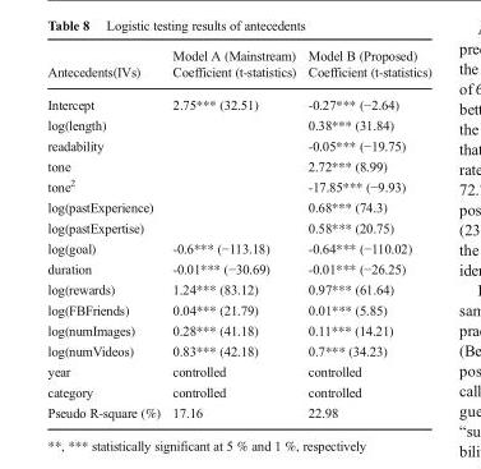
<table><thead><tr><td rowspan="2">Antecedents(IVs)</td><td rowspan="2">Model A (Mainstream) Coefficient (t-statistics)</td><td rowspan="2">Model B (Proposed) Coefficient (t-statistics)</td></tr><tr></tr></thead><tbody><tr><td>Intercept</td><td>2.75*** (32.51)</td><td>-0.27*** (−2.64)</td></tr><tr><td>log(length)</td><td></td><td>0.38*** (31.84)</td></tr><tr><td>readability</td><td></td><td>-0.05*** (−19.75)</td></tr><tr><td>tone</td><td></td><td>2.72*** (8.99)</td></tr><tr><td>tone<sup>2</sup></td><td></td><td>-17.85*** (−9.93)</td></tr><tr><td>log(pastExperience)</td><td></td><td>0.68*** (74.3)</td></tr><tr><td>log(pastExpertise)</td><td></td><td>0.58*** (20.75)</td></tr><tr><td>log(goal)</td><td>-0.6*** (−113.18)</td><td>-0.64*** (−110.02)</td></tr><tr><td>duration</td><td>-0.01*** (−30.69)</td><td>-0.01*** (−26.25)</td></tr><tr><td>log(rewards)</td><td>1.24*** (83.12)</td><td>0.97*** (61.64)</td></tr><tr><td>log(FBFriends)</td><td>0.04*** (21.79)</td><td>0.01*** (5.85)</td></tr><tr><td>log(numImages)</td><td>0.28*** (41.18)</td><td>0.11*** (14.21)</td></tr><tr><td>log(numVideos)</td><td>0.83*** (42.18)</td><td>0.7*** (34.23)</td></tr><tr><td>year</td><td>controlled</td><td>controlled</td></tr><tr><td>category</td><td>controlled</td><td>controlled</td></tr><tr><td>Pseudo R-square (%)</td><td>17.16</td><td>22.98</td></tr></tbody></table>